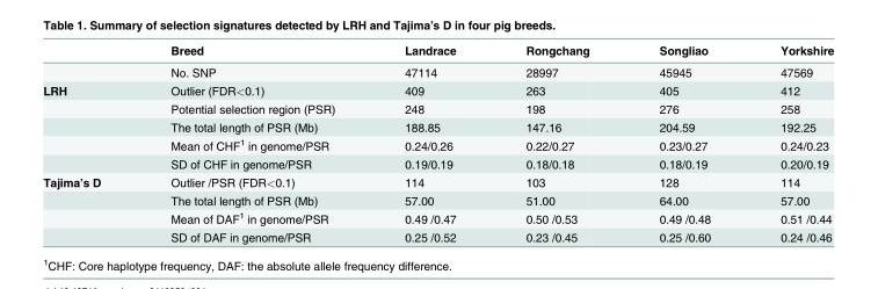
<table><thead><tr><td></td><td>Breed</td><td>Landrace</td><td>Rongchang</td><td>Songliao</td><td>Yorkshire</td></tr></thead><tbody><tr><td></td><td>No. SNP</td><td>47114</td><td>28997</td><td>45945</td><td>47569</td></tr><tr><td rowspan="5">LRH</td><td>Outlier (FDR&lt;0.1)</td><td>409</td><td>263</td><td>405</td><td>412</td></tr><tr><td>Potential selection region (PSR)</td><td>248</td><td>198</td><td>276</td><td>258</td></tr><tr><td>The total length of PSR (Mb)</td><td>188.85</td><td>147.16</td><td>204.59</td><td>192.25</td></tr><tr><td>Mean of CHF<sup>1</sup> in genome/PSR</td><td>0.24/0.26</td><td>0.22/0.27</td><td>0.23/0.27</td><td>0.24/0.23</td></tr><tr><td>SD of CHF in genome/PSR</td><td>0.19/0.19</td><td>0.18/0.18</td><td>0.18/0.19</td><td>0.20/0.19</td></tr><tr><td rowspan="4">Tajima’s D</td><td>Outlier /PSR (FDR&lt;0.1)</td><td>114</td><td>103</td><td>128</td><td>114</td></tr><tr><td>The total length of PSR (Mb)</td><td>57.00</td><td>51.00</td><td>64.00</td><td>57.00</td></tr><tr><td>Mean of DAF<sup>1</sup> in genome/PSR</td><td>0.49 /0.47</td><td>0.50 /0.53</td><td>0.49 /0.48</td><td>0.51 /0.44</td></tr><tr><td>SD of DAF in genome/PSR</td><td>0.25 /0.52</td><td>0.23 /0.45</td><td>0.25 /0.60</td><td>0.24 /0.46</td></tr></tbody></table>